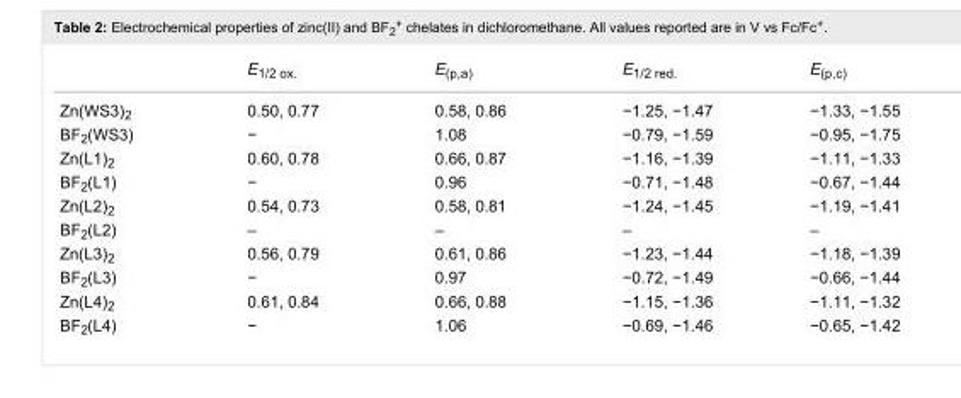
<table><thead><tr><td></td><td>E<sub>1/2 ox.</sub></td><td>E<sub>(p,a)</sub></td><td>E<sub>1/2 red.</sub></td><td>E<sub>(p,c)</sub></td></tr></thead><tbody><tr><td>Zn(WS3)<sub>2</sub></td><td>0.50, 0.77</td><td>0.58, 0.86</td><td>−1.25, −1.47</td><td>−1.33, −1.55</td></tr><tr><td>BF<sub>2</sub>(WS3)</td><td>−</td><td>1.08</td><td>−0.79, −1.59</td><td>−0.95, −1.75</td></tr><tr><td>Zn(L1)<sub>2</sub></td><td>0.60, 0.78</td><td>0.66, 0.87</td><td>−1.16, −1.39</td><td>−1.11, −1.33</td></tr><tr><td>BF<sub>2</sub>(L1)</td><td>−</td><td>0.96</td><td>−0.71, −1.48</td><td>−0.67, −1.44</td></tr><tr><td>Zn(L2)<sub>2</sub></td><td>0.54, 0.73</td><td>0.58, 0.81</td><td>−1.24, −1.45</td><td>−1.19, −1.41</td></tr><tr><td>BF<sub>2</sub>(L2)</td><td>–</td><td>–</td><td>–</td><td>–</td></tr><tr><td>Zn(L3)<sub>2</sub></td><td>0.56, 0.79</td><td>0.61, 0.86</td><td>−1.23, −1.44</td><td>−1.18, −1.39</td></tr><tr><td>BF<sub>2</sub>(L3)</td><td>−</td><td>0.97</td><td>−0.72, −1.49</td><td>−0.66, −1.44</td></tr><tr><td>Zn(L4)<sub>2</sub></td><td>0.61, 0.84</td><td>0.66, 0.88</td><td>−1.15, −1.36</td><td>−1.11, −1.32</td></tr><tr><td>BF<sub>2</sub>(L4)</td><td>−</td><td>1.06</td><td>−0.69, −1.46</td><td>−0.65, −1.42</td></tr></tbody></table>